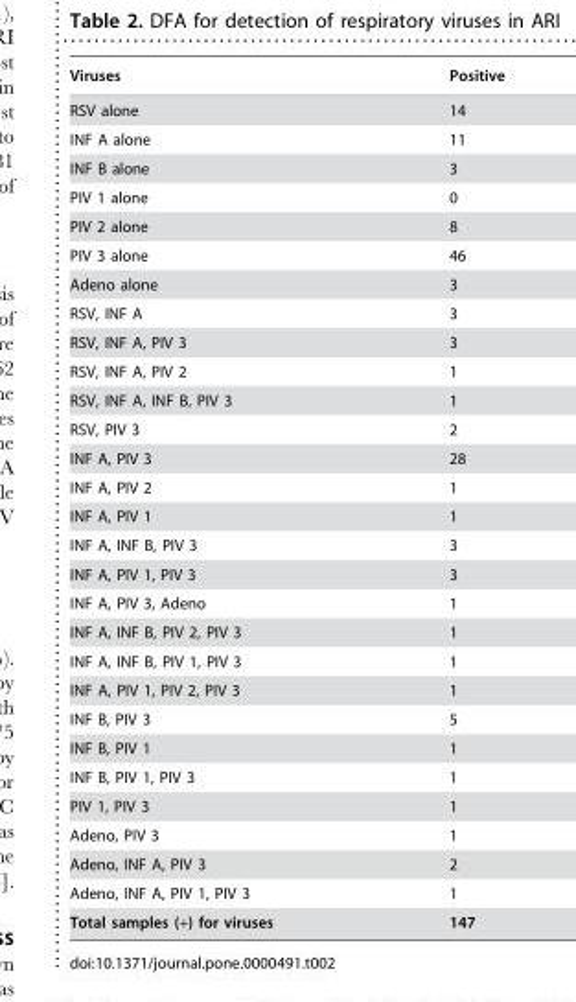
<table><thead><tr><td>Viruses</td><td>Positive</td></tr></thead><tbody><tr><td>RSV alone</td><td>14</td></tr><tr><td>INF A alone</td><td>11</td></tr><tr><td>INF B alone</td><td>3</td></tr><tr><td>PIV 1 alone</td><td>0</td></tr><tr><td>PIV 2 alone</td><td>8</td></tr><tr><td>PIV 3 alone</td><td>46</td></tr><tr><td>Adeno alone</td><td>3</td></tr><tr><td>RSV, INF A</td><td>3</td></tr><tr><td>RSV, INF A, PIV 3</td><td>3</td></tr><tr><td>RSV, INF A, PIV 2</td><td>1</td></tr><tr><td>RSV, INF A, INF B, PIV 3</td><td>1</td></tr><tr><td>RSV, PIV 3</td><td>2</td></tr><tr><td>INF A, PIV 3</td><td>28</td></tr><tr><td>INF A, PIV 2</td><td>1</td></tr><tr><td>INF A, PIV 1</td><td>1</td></tr><tr><td>INF A, INF B, PIV 3</td><td>3</td></tr><tr><td>INF A, PIV 1, PIV 3</td><td>3</td></tr><tr><td>INF A, PIV 3, Adeno</td><td>1</td></tr><tr><td>INF A, INF B, PIV 2, PIV 3</td><td>1</td></tr><tr><td>INF A, INF B, PIV 1, PIV 3</td><td>1</td></tr><tr><td>INF A, PIV 1, PIV 2, PIV 3</td><td>1</td></tr><tr><td>INF B, PIV 3</td><td>5</td></tr><tr><td>INF B, PIV 1</td><td>1</td></tr><tr><td>INF B, PIV 1, PIV 3</td><td>1</td></tr><tr><td>PIV 1, PIV 3</td><td>1</td></tr><tr><td>Adeno, PIV 3</td><td>1</td></tr><tr><td>Adeno, INF A, PIV 3</td><td>2</td></tr><tr><td>Adeno, INF A, PIV 1, PIV 3</td><td>1</td></tr><tr><td>Total samples (+) for viruses</td><td>147</td></tr></tbody></table>